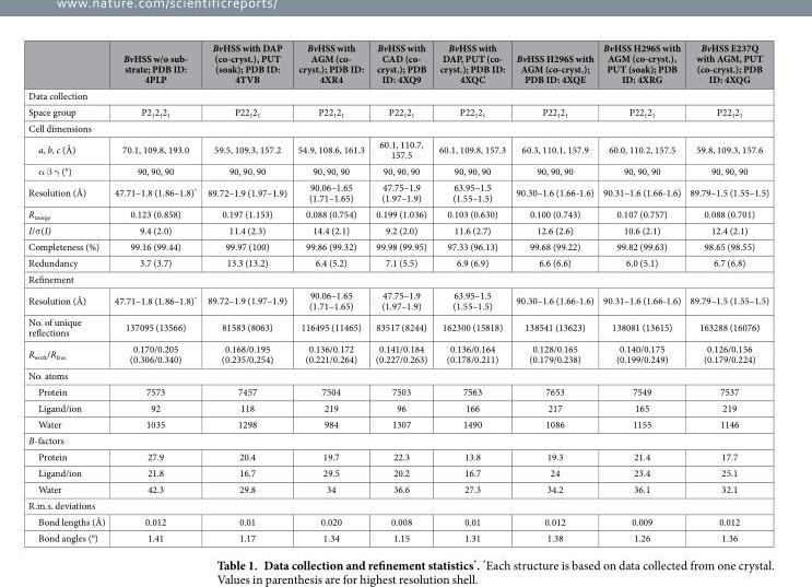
<table><thead><tr><td></td><td>BvHSS w/o sub- strate; PDB ID: 4PLP</td><td>BvHSS with DAP (co-cryst.), PUT (soak); PDB ID: 4TVB</td><td>BvHSS with AGM (co- cryst.); PDB ID: 4XR4</td><td>BvHSS with CAD (co- cryst.); PDB ID: 4XQ9</td><td>BvHSS with DAP, PUT (co- cryst.); PDB ID: 4XQC</td><td>BvHSS H296S with AGM (co-cryst.); PDB ID: 4XQE</td><td>BvHSS H296S with AGM (co-cryst.), PUT (soak); PDB ID: 4XRG</td><td>BvHSS E237Q with AGM, PUT (co-cryst.); PDB ID: 4XQG</td></tr></thead><tbody><tr><td colspan="9">Data collection</td></tr><tr><td>Space group</td><td>P2<sub>1</sub>2<sub>1</sub>2<sub>1</sub></td><td>P22<sub>1</sub>2<sub>1</sub></td><td>P22<sub>1</sub>2<sub>1</sub></td><td>P22<sub>1</sub>2<sub>1</sub></td><td>P22<sub>1</sub>2<sub>1</sub></td><td>P22<sub>1</sub>2<sub>1</sub></td><td>P22<sub>1</sub>2<sub>1</sub></td><td>P22<sub>1</sub>2<sub>1</sub></td></tr><tr><td colspan="9">Cell dimensions</td></tr><tr><td>a, b, c (Å)</td><td>70.1, 109.8, 193.0</td><td>59.5, 109.3, 157.2</td><td>54.9, 108.6, 161.3</td><td>60.1, 110.7, 157.5</td><td>60.1, 109.8, 157.3</td><td>60.3, 110.1, 157.9</td><td>60.0, 110.2, 157.5</td><td>59.8, 109.3, 157.6</td></tr><tr><td>α β γ (°)</td><td>90, 90, 90</td><td>90, 90, 90</td><td>90, 90, 90</td><td>90, 90, 90</td><td>90, 90, 90</td><td>90, 90, 90</td><td>90, 90, 90</td><td>90, 90, 90</td></tr><tr><td>Resolution (Å)</td><td>47.71–1.8 (1.86–1.8)*</td><td>89.72–1.9 (1.97–1.9)</td><td>90.06–1.65 (1.71–1.65)</td><td>47.75–1.9 (1.97–1.9)</td><td>63.95–1.5 (1.55–1.5)</td><td>90.30–1.6 (1.66-1.6)</td><td>90.31–1.6 (1.66-1.6)</td><td>89.79–1.5 (1.55–1.5)</td></tr><tr><td>R<sub>merge</sub></td><td>0.123 (0.858)</td><td>0.197 (1.153)</td><td>0.088 (0.754)</td><td>0.199 (1.036)</td><td>0.103 (0.630)</td><td>0.100 (0.743)</td><td>0.107 (0.757)</td><td>0.088 (0.701)</td></tr><tr><td>I/σ (I)</td><td>9.4 (2.0)</td><td>11.4 (2.3)</td><td>14.4 (2.1)</td><td>9.2 (2.0)</td><td>11.6 (2.7)</td><td>12.6 (2.6)</td><td>10.6 (2.1)</td><td>12.4 (2.1)</td></tr><tr><td>Completeness (%)</td><td>99.16 (99.44)</td><td>99.97 (100)</td><td>99.86 (99.32)</td><td>99.98 (99.95)</td><td>97.33 (96.13)</td><td>99.68 (99.22)</td><td>99.82 (99.63)</td><td>98.65 (98.55)</td></tr><tr><td>Redundancy</td><td>3.7 (3.7)</td><td>13.3 (13.2)</td><td>6.4 (5.2)</td><td>7.1 (5.5)</td><td>6.9 (6.9)</td><td>6.6 (6.6)</td><td>6.0 (5.1)</td><td>6.7 (6.8)</td></tr><tr><td colspan="9">Refinement</td></tr><tr><td>Resolution (Å)</td><td>47.71–1.8 (1.86–1.8)*</td><td>89.72–1.9 (1.97–1.9)</td><td>90.06–1.65 (1.71–1.65)</td><td>47.75–1.9 (1.97–1.9)</td><td>63.95–1.5 (1.55–1.5)</td><td>90.30–1.6 (1.66-1.6)</td><td>90.31–1.6 (1.66-1.6)</td><td>89.79–1.5 (1.55–1.5)</td></tr><tr><td>No. of unique reflections</td><td>137095 (13566)</td><td>81583 (8063)</td><td>116495 (11465)</td><td>83517 (8244)</td><td>162300 (15818)</td><td>138541 (13623)</td><td>138081 (13615)</td><td>163288 (16076)</td></tr><tr><td>R<sub>work</sub>/R<sub>free</sub></td><td>0.170/0.205 (0.306/0.340)</td><td>0.168/0.195 (0.235/0.254)</td><td>0.136/0.172 (0.221/0.264)</td><td>0.141/0.184 (0.227/0.263)</td><td>0.136/0.164 (0.178/0.211)</td><td>0.128/0.165 (0.179/0.238)</td><td>0.140/0.175 (0.199/0.249)</td><td>0.126/0.156 (0.179/0.224)</td></tr><tr><td colspan="9">No. atoms</td></tr><tr><td>Protein</td><td>7573</td><td>7457</td><td>7504</td><td>7503</td><td>7563</td><td>7653</td><td>7549</td><td>7537</td></tr><tr><td>Ligand/ion</td><td>92</td><td>118</td><td>219</td><td>96</td><td>166</td><td>217</td><td>165</td><td>219</td></tr><tr><td>Water</td><td>1035</td><td>1298</td><td>984</td><td>1307</td><td>1490</td><td>1086</td><td>1155</td><td>1146</td></tr><tr><td colspan="9">B-factors</td></tr><tr><td>Protein</td><td>27.9</td><td>20.4</td><td>19.7</td><td>22.3</td><td>13.8</td><td>19.3</td><td>21.4</td><td>17.7</td></tr><tr><td>Ligand/ion</td><td>21.8</td><td>16.7</td><td>29.5</td><td>20.2</td><td>16.7</td><td>24</td><td>23.4</td><td>25.1</td></tr><tr><td>Water</td><td>42.3</td><td>29.8</td><td>34</td><td>36.6</td><td>27.3</td><td>34.2</td><td>36.1</td><td>32.1</td></tr><tr><td colspan="9">R.m.s. deviations</td></tr><tr><td>Bond lengths (Å)</td><td>0.012</td><td>0.01</td><td>0.020</td><td>0.008</td><td>0.01</td><td>0.012</td><td>0.009</td><td>0.012</td></tr><tr><td>Bond angles (°)</td><td>1.41</td><td>1.17</td><td>1.34</td><td>1.15</td><td>1.31</td><td>1.38</td><td>1.26</td><td>1.36</td></tr></tbody></table>